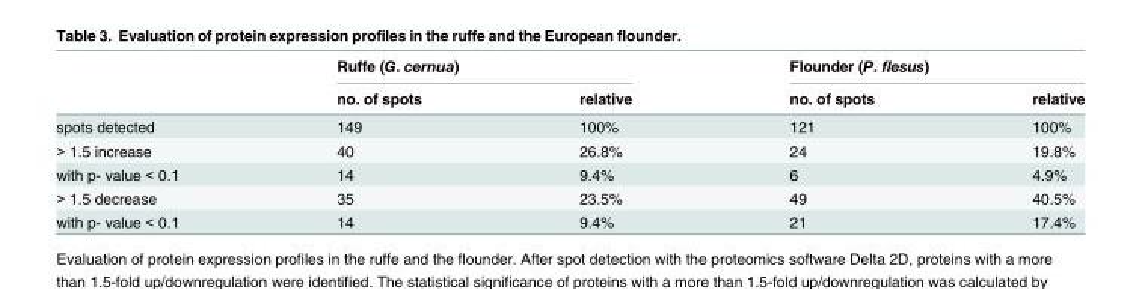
<table><thead><tr><td rowspan="2"></td><td colspan="2">Ruffe (G. cernua)</td><td colspan="2">Flounder (P. flesus)</td></tr><tr><td>no. of spots</td><td>relative</td><td>no. of spots</td><td>relative</td></tr></thead><tbody><tr><td>spots detected</td><td>149</td><td>100%</td><td>121</td><td>100%</td></tr><tr><td>&gt; 1.5 increase</td><td>40</td><td>26.8%</td><td>24</td><td>19.8%</td></tr><tr><td>with p- value &lt; 0.1</td><td>14</td><td>9.4%</td><td>6</td><td>4.9%</td></tr><tr><td>&gt; 1.5 decrease</td><td>35</td><td>23.5%</td><td>49</td><td>40.5%</td></tr><tr><td>with p- value &lt; 0.1</td><td>14</td><td>9.4%</td><td>21</td><td>17.4%</td></tr></tbody></table>